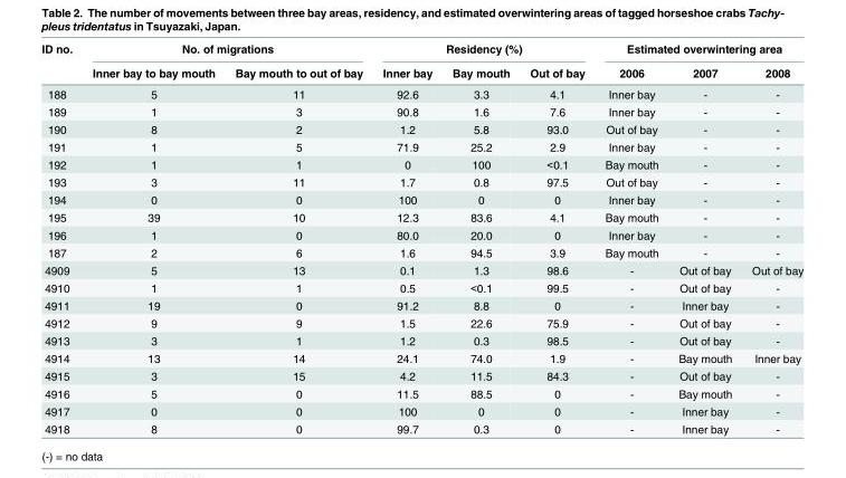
<table><thead><tr><td rowspan="2">ID no.</td><td colspan="2">No. of migrations</td><td colspan="3">Residency (%)</td><td colspan="3">Estimated overwintering area</td></tr><tr><td>Inner bay to bay mouth</td><td>Bay mouth to out of bay</td><td>Inner bay</td><td>Bay mouth</td><td>Out of bay</td><td>2006</td><td>2007</td><td>2008</td></tr></thead><tbody><tr><td>188</td><td>5</td><td>11</td><td>92.6</td><td>3.3</td><td>4.1</td><td>Inner bay</td><td>-</td><td>-</td></tr><tr><td>189</td><td>1</td><td>3</td><td>90.8</td><td>1.6</td><td>7.6</td><td>Inner bay</td><td>-</td><td>-</td></tr><tr><td>190</td><td>8</td><td>2</td><td>1.2</td><td>5.8</td><td>93.0</td><td>Out of bay</td><td>-</td><td>-</td></tr><tr><td>191</td><td>1</td><td>5</td><td>71.9</td><td>25.2</td><td>2.9</td><td>Inner bay</td><td>-</td><td>-</td></tr><tr><td>192</td><td>1</td><td>1</td><td>0</td><td>100</td><td>&lt;0.1</td><td>Bay mouth</td><td>-</td><td>-</td></tr><tr><td>193</td><td>3</td><td>11</td><td>1.7</td><td>0.8</td><td>97.5</td><td>Out of bay</td><td>-</td><td>-</td></tr><tr><td>194</td><td>0</td><td>0</td><td>100</td><td>0</td><td>0</td><td>Inner bay</td><td>-</td><td>-</td></tr><tr><td>195</td><td>39</td><td>10</td><td>12.3</td><td>83.6</td><td>4.1</td><td>Bay mouth</td><td>-</td><td>-</td></tr><tr><td>196</td><td>1</td><td>0</td><td>80.0</td><td>20.0</td><td>0</td><td>Inner bay</td><td>-</td><td>-</td></tr><tr><td>187</td><td>2</td><td>6</td><td>1.6</td><td>94.5</td><td>3.9</td><td>Bay mouth</td><td>-</td><td>-</td></tr><tr><td>4909</td><td>5</td><td>13</td><td>0.1</td><td>1.3</td><td>98.6</td><td>-</td><td>Out of bay</td><td>Out of bay</td></tr><tr><td>4910</td><td>1</td><td>1</td><td>0.5</td><td>&lt;0.1</td><td>99.5</td><td>-</td><td>Out of bay</td><td>-</td></tr><tr><td>4911</td><td>19</td><td>0</td><td>91.2</td><td>8.8</td><td>0</td><td>-</td><td>Inner bay</td><td>-</td></tr><tr><td>4912</td><td>9</td><td>9</td><td>1.5</td><td>22.6</td><td>75.9</td><td>-</td><td>Out of bay</td><td>-</td></tr><tr><td>4913</td><td>3</td><td>1</td><td>1.2</td><td>0.3</td><td>98.5</td><td>-</td><td>Out of bay</td><td>-</td></tr><tr><td>4914</td><td>13</td><td>14</td><td>24.1</td><td>74.0</td><td>1.9</td><td>-</td><td>Bay mouth</td><td>Inner bay</td></tr><tr><td>4915</td><td>3</td><td>15</td><td>4.2</td><td>11.5</td><td>84.3</td><td>-</td><td>Out of bay</td><td>-</td></tr><tr><td>4916</td><td>5</td><td>0</td><td>11.5</td><td>88.5</td><td>0</td><td>-</td><td>Bay mouth</td><td>-</td></tr><tr><td>4917</td><td>0</td><td>0</td><td>100</td><td>0</td><td>0</td><td>-</td><td>Inner bay</td><td>-</td></tr><tr><td>4918</td><td>8</td><td>0</td><td>99.7</td><td>0.3</td><td>0</td><td>-</td><td>Inner bay</td><td>-</td></tr></tbody></table>